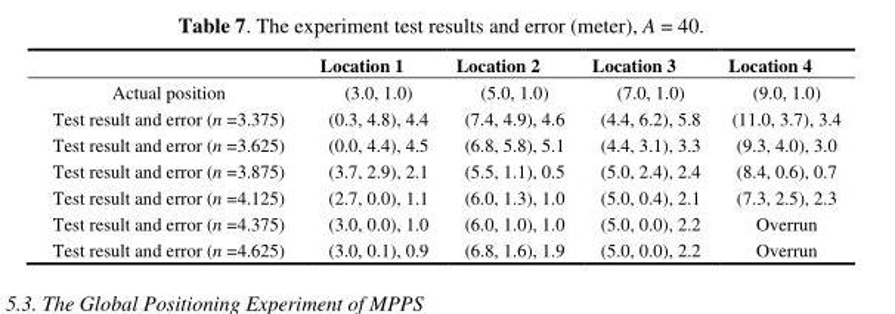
<table><thead><tr><td></td><td>Location 1</td><td>Location 2</td><td>Location 3</td><td>Location 4</td></tr></thead><tbody><tr><td>Actual position</td><td>(3.0, 1.0)</td><td>(5.0, 1.0)</td><td>(7.0, 1.0)</td><td>(9.0, 1.0)</td></tr><tr><td>Test result and error (n =3.375)</td><td>(0.3, 4.8), 4.4</td><td>(7.4, 4.9), 4.6</td><td>(4.4, 6.2), 5.8</td><td>(11.0, 3.7), 3.4</td></tr><tr><td>Test result and error (n =3.625)</td><td>(0.0, 4.4), 4.5</td><td>(6.8, 5.8), 5.1</td><td>(4.4, 3.1), 3.3</td><td>(9.3, 4.0), 3.0</td></tr><tr><td>Test result and error (n =3.875)</td><td>(3.7, 2.9), 2.1</td><td>(5.5, 1.1), 0.5</td><td>(5.0, 2.4), 2.4</td><td>(8.4, 0.6), 0.7</td></tr><tr><td>Test result and error (n =4.125)</td><td>(2.7, 0.0), 1.1</td><td>(6.0, 1.3), 1.0</td><td>(5.0, 0.4), 2.1</td><td>(7.3, 2.5), 2.3</td></tr><tr><td>Test result and error (n =4.375)</td><td>(3.0, 0.0), 1.0</td><td>(6.0, 1.0), 1.0</td><td>(5.0, 0.0), 2.2</td><td>Overrun</td></tr><tr><td>Test result and error (n =4.625)</td><td>(3.0, 0.1), 0.9</td><td>(6.8, 1.6), 1.9</td><td>(5.0, 0.0), 2.2</td><td>Overrun</td></tr></tbody></table>